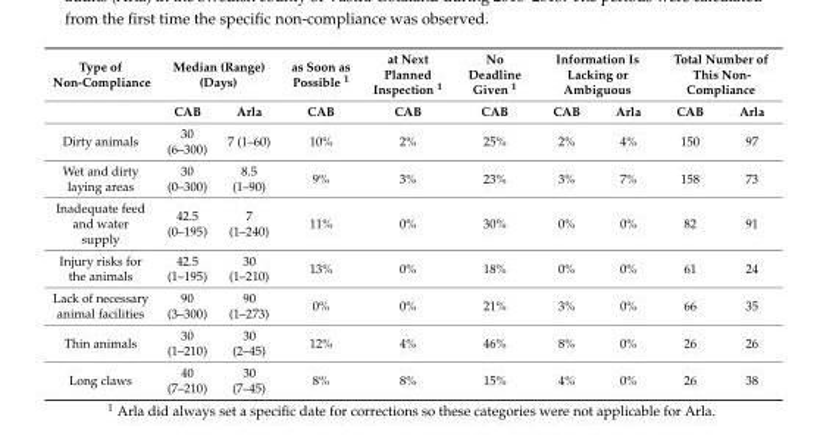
<table><thead><tr><td rowspan="2">Type of Non-Compliance</td><td colspan="2">Median (Range) (Days)</td><td rowspan="2">as Soon as Possible <sup>1</sup> CAB</td><td rowspan="2">at Next Planned Inspection <sup>1</sup> CAB</td><td rowspan="2">No Deadline Given <sup>1</sup> CAB</td><td colspan="2">Information Is Lacking or Ambiguous</td><td colspan="2">Total Number of This Non- Compliance</td></tr><tr><td>CAB</td><td>Arla</td><td>CAB</td><td>Arla</td><td>CAB</td><td>Arla</td></tr></thead><tbody><tr><td>Dirty animals</td><td>30 (6–300)</td><td>7 (1–60)</td><td>10%</td><td>2%</td><td>25%</td><td>2%</td><td>4%</td><td>150</td><td>97</td></tr><tr><td>Wet and dirty laying areas</td><td>30 (0–300)</td><td>8.5 (1–90)</td><td>9%</td><td>3%</td><td>23%</td><td>3%</td><td>7%</td><td>158</td><td>73</td></tr><tr><td>Inadequate feed and water supply</td><td>42.5 (0–195)</td><td>7 (1–240)</td><td>11%</td><td>0%</td><td>30%</td><td>0%</td><td>0%</td><td>82</td><td>91</td></tr><tr><td>Injury risks for the animals</td><td>42.5 (1–195)</td><td>30 (1–210)</td><td>13%</td><td>0%</td><td>18%</td><td>0%</td><td>0%</td><td>61</td><td>24</td></tr><tr><td>Lack of necessary animal facilities</td><td>90 (3–300)</td><td>90 (1–273)</td><td>0%</td><td>0%</td><td>21%</td><td>3%</td><td>0%</td><td>66</td><td>35</td></tr><tr><td>Thin animals</td><td>30 (1–210)</td><td>30 (2–45)</td><td>12%</td><td>4%</td><td>46%</td><td>8%</td><td>0%</td><td>26</td><td>26</td></tr><tr><td>Long claws</td><td>40 (7–210)</td><td>30 (7–45)</td><td>8%</td><td>8%</td><td>15%</td><td>4%</td><td>0%</td><td>26</td><td>38</td></tr></tbody></table>